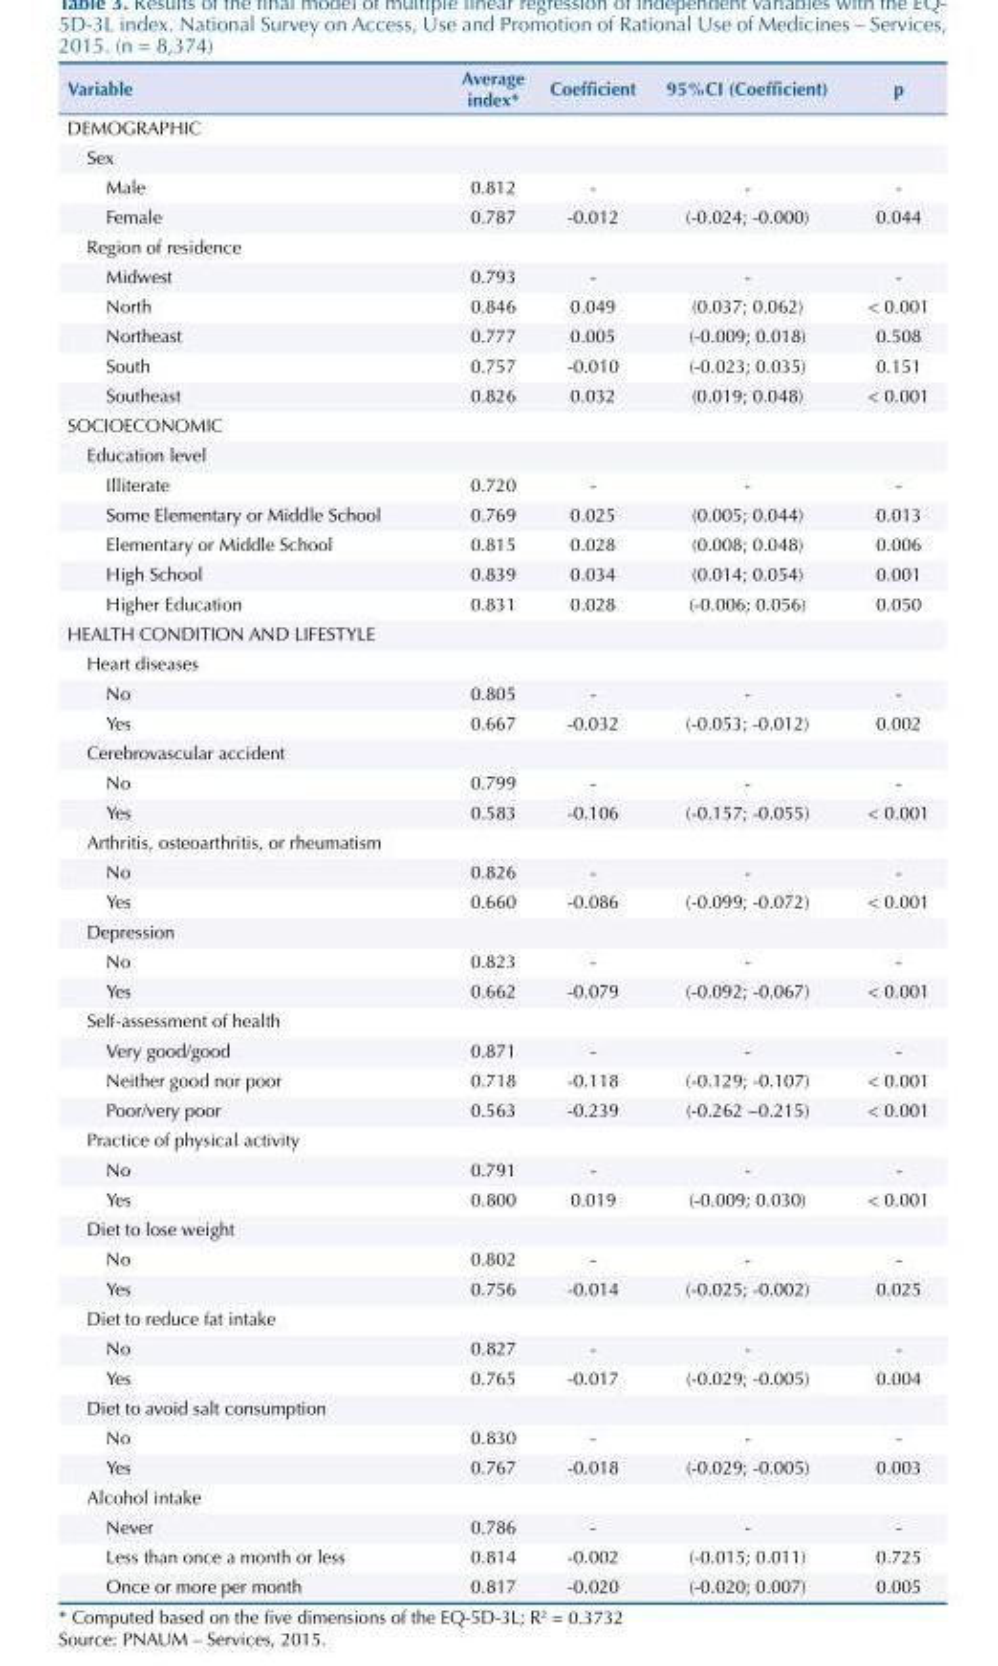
<table><thead><tr><td>Variable</td><td>Average index*</td><td>Coefficient</td><td>95%CI (Coefficient)</td><td>p</td></tr></thead><tbody><tr><td colspan="5">DEMOGRAPHIC</td></tr><tr><td colspan="5">Sex</td></tr><tr><td>Male</td><td>0.812</td><td>-</td><td>-</td><td>-</td></tr><tr><td>Female</td><td>0.787</td><td>-0.012</td><td>(-0.024; -0.000)</td><td>0.044</td></tr><tr><td colspan="5">Region of residence</td></tr><tr><td>Midwest</td><td>0.793</td><td>-</td><td>-</td><td>-</td></tr><tr><td>North</td><td>0.846</td><td>0.049</td><td>(0.037; 0.062)</td><td>&lt; 0.001</td></tr><tr><td>Northeast</td><td>0.777</td><td>0.005</td><td>(-0.009; 0.018)</td><td>0.508</td></tr><tr><td>South</td><td>0.757</td><td>-0.010</td><td>(-0.023; 0.035)</td><td>0.151</td></tr><tr><td>Southeast</td><td>0.826</td><td>0.032</td><td>(0.019; 0.048)</td><td>&lt; 0.001</td></tr><tr><td colspan="5">SOCIOECONOMIC</td></tr><tr><td colspan="5">Education level</td></tr><tr><td>Illiterate</td><td>0.720</td><td>-</td><td>-</td><td>-</td></tr><tr><td>Some Elementary or Middle School</td><td>0.769</td><td>0.025</td><td>(0.005; 0.044)</td><td>0.013</td></tr><tr><td>Elementary or Middle School</td><td>0.815</td><td>0.028</td><td>(0.008; 0.048)</td><td>0.006</td></tr><tr><td>High School</td><td>0.839</td><td>0.034</td><td>(0.014; 0.054)</td><td>0.001</td></tr><tr><td>Higher Education</td><td>0.831</td><td>0.028</td><td>(-0.006; 0.056)</td><td>0.050</td></tr><tr><td colspan="5">HEALTH CONDITION AND LIFESTYLE</td></tr><tr><td colspan="5">Heart diseases</td></tr><tr><td>No</td><td>0.805</td><td>-</td><td>-</td><td>-</td></tr><tr><td>Yes</td><td>0.667</td><td>-0.032</td><td>(-0.053; -0.012)</td><td>0.002</td></tr><tr><td colspan="5">Cerebrovascular accident</td></tr><tr><td>No</td><td>0.799</td><td>-</td><td>-</td><td>-</td></tr><tr><td>Yes</td><td>0.583</td><td>-0.106</td><td>(-0.157; -0.055)</td><td>&lt; 0.001</td></tr><tr><td colspan="5">Arthritis, osteoarthritis, or rheumatism</td></tr><tr><td>No</td><td>0.826</td><td>-</td><td>-</td><td>-</td></tr><tr><td>Yes</td><td>0.660</td><td>-0.086</td><td>(-0.099; -0.072)</td><td>&lt; 0.001</td></tr><tr><td colspan="5">Depression</td></tr><tr><td>No</td><td>0.823</td><td>-</td><td>-</td><td>-</td></tr><tr><td>Yes</td><td>0.662</td><td>-0.079</td><td>(-0.092; -0.067)</td><td>&lt; 0.001</td></tr><tr><td colspan="5">Self-assessment of health</td></tr><tr><td>Very good/good</td><td>0.871</td><td>-</td><td>-</td><td>-</td></tr><tr><td>Neither good nor poor</td><td>0.718</td><td>-0.118</td><td>(-0.129; -0.107)</td><td>&lt; 0.001</td></tr><tr><td>Poor/very poor</td><td>0.563</td><td>-0.239</td><td>(-0.262 −0.215)</td><td>&lt; 0.001</td></tr><tr><td colspan="5">Practice of physical activity</td></tr><tr><td>No</td><td>0.791</td><td>-</td><td>-</td><td>-</td></tr><tr><td>Yes</td><td>0.800</td><td>0.019</td><td>(-0.009; 0.030)</td><td>&lt; 0.001</td></tr><tr><td colspan="5">Diet to lose weight</td></tr><tr><td>No</td><td>0.802</td><td>-</td><td>-</td><td>-</td></tr><tr><td>Yes</td><td>0.756</td><td>-0.014</td><td>(-0.025; -0.002)</td><td>0.025</td></tr><tr><td colspan="5">Diet to reduce fat intake</td></tr><tr><td>No</td><td>0.827</td><td>-</td><td>-</td><td>-</td></tr><tr><td>Yes</td><td>0.765</td><td>-0.017</td><td>(-0.029; -0.005)</td><td>0.004</td></tr><tr><td colspan="5">Diet to avoid salt consumption</td></tr><tr><td>No</td><td>0.830</td><td>-</td><td>-</td><td>-</td></tr><tr><td>Yes</td><td>0.767</td><td>-0.018</td><td>(-0.029; -0.005)</td><td>0.003</td></tr><tr><td colspan="5">Alcohol intake</td></tr><tr><td>Never</td><td>0.786</td><td>-</td><td>-</td><td>-</td></tr><tr><td>Less than once a month or less</td><td>0.814</td><td>-0.002</td><td>(-0.015; 0.011)</td><td>0.725</td></tr><tr><td>Once or more per month</td><td>0.817</td><td>-0.020</td><td>(-0.020; 0.007)</td><td>0.005</td></tr></tbody></table>